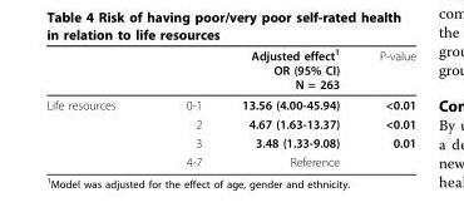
<table><thead><tr><td></td><td></td><td>Adjusted effect<sup>1</sup> OR (95% CI) N = 263</td><td>P-value</td></tr></thead><tbody><tr><td rowspan="4">Life resources</td><td>0-1</td><td>13.56 (4.00-45.94)</td><td>&lt;0.01</td></tr><tr><td>2</td><td>4.67 (1.63-13.37)</td><td>&lt;0.01</td></tr><tr><td>3</td><td>3.48 (1.33-9.08)</td><td>0.01</td></tr><tr><td>4-7</td><td>Reference</td><td></td></tr></tbody></table>